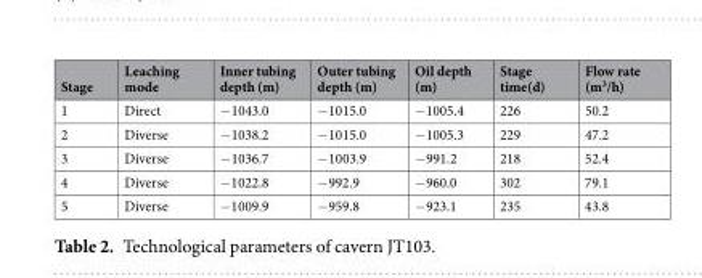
<table><thead><tr><td>Stage</td><td>Leaching mode</td><td>Inner tubing depth (m)</td><td>Outer tubing depth (m)</td><td>Oil depth (m)</td><td>Stage time(d)</td><td>Flow rate (m<sup>3</sup>/h)</td></tr></thead><tbody><tr><td>1</td><td>Direct</td><td>−1043.0</td><td>−1015.0</td><td>−1005.4</td><td>226</td><td>50.2</td></tr><tr><td>2</td><td>Diverse</td><td>−1038.2</td><td>−1015.0</td><td>−1005.3</td><td>229</td><td>47.2</td></tr><tr><td>3</td><td>Diverse</td><td>−1036.7</td><td>−1003.9</td><td>−991.2</td><td>218</td><td>52.4</td></tr><tr><td>4</td><td>Diverse</td><td>−1022.8</td><td>−992.9</td><td>−960.0</td><td>302</td><td>79.1</td></tr><tr><td>5</td><td>Diverse</td><td>−1009.9</td><td>−959.8</td><td>−923.1</td><td>235</td><td>43.8</td></tr></tbody></table>